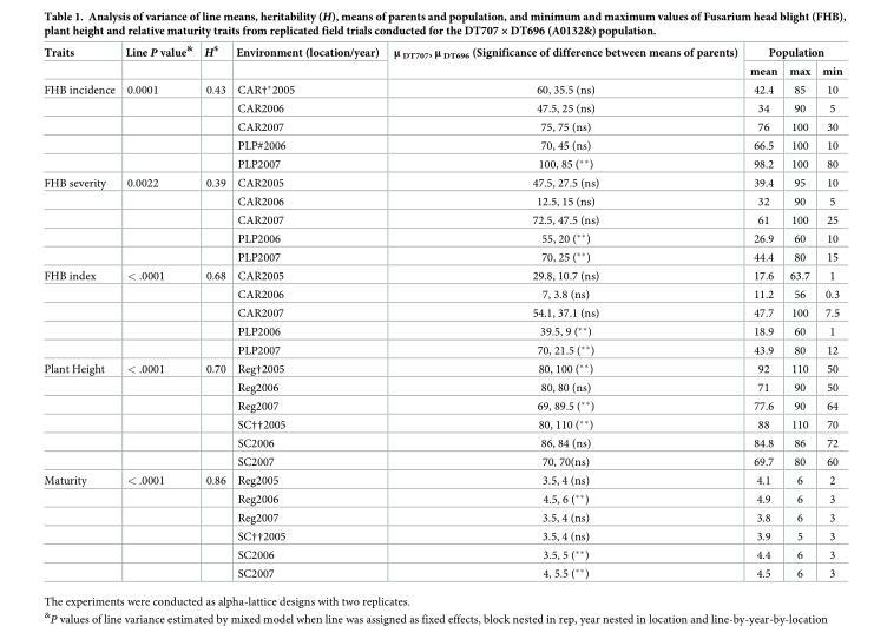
<table><thead><tr><td rowspan="2">Traits</td><td rowspan="2">Line P value<sup>&amp;</sup></td><td rowspan="2">H<sup>$</sup></td><td rowspan="2">Environment (location/year)</td><td rowspan="2">μ <sub>DT707</sub>, μ <sub>DT696</sub> (Significance of difference between means of parents)</td><td colspan="3">Population</td></tr><tr><td>mean</td><td>max</td><td>min</td></tr></thead><tbody><tr><td rowspan="5">FHB incidence</td><td>0.0001</td><td>0.43</td><td>CAR†*2005</td><td>60, 35.5 (ns)</td><td>42.4</td><td>85</td><td>10</td></tr><tr><td></td><td></td><td>CAR2006</td><td>47.5, 25 (ns)</td><td>34</td><td>90</td><td>5</td></tr><tr><td></td><td></td><td>CAR2007</td><td>75, 75 (ns)</td><td>76</td><td>100</td><td>30</td></tr><tr><td></td><td></td><td>PLP#2006</td><td>70, 45 (ns)</td><td>66.5</td><td>100</td><td>10</td></tr><tr><td></td><td></td><td>PLP2007</td><td>100, 85 (**)</td><td>98.2</td><td>100</td><td>80</td></tr><tr><td rowspan="5">FHB severity</td><td>0.0022</td><td>0.39</td><td>CAR2005</td><td>47.5, 27.5 (ns)</td><td>39.4</td><td>95</td><td>10</td></tr><tr><td></td><td></td><td>CAR2006</td><td>12.5, 15 (ns)</td><td>32</td><td>90</td><td>5</td></tr><tr><td></td><td></td><td>CAR2007</td><td>72.5, 47.5 (ns)</td><td>61</td><td>100</td><td>25</td></tr><tr><td></td><td></td><td>PLP2006</td><td>55, 20 (**)</td><td>26.9</td><td>60</td><td>10</td></tr><tr><td></td><td></td><td>PLP2007</td><td>70, 25 (**)</td><td>44.4</td><td>80</td><td>15</td></tr><tr><td rowspan="5">FHB index</td><td>&lt; .0001</td><td>0.68</td><td>CAR2005</td><td>29.8, 10.7 (ns)</td><td>17.6</td><td>63.7</td><td>1</td></tr><tr><td></td><td></td><td>CAR2006</td><td>7, 3.8 (ns)</td><td>11.2</td><td>56</td><td>0.3</td></tr><tr><td></td><td></td><td>CAR2007</td><td>54.1, 37.1 (ns)</td><td>47.7</td><td>100</td><td>7.5</td></tr><tr><td></td><td></td><td>PLP2006</td><td>39.5, 9 (**)</td><td>18.9</td><td>60</td><td>1</td></tr><tr><td></td><td></td><td>PLP2007</td><td>70, 21.5 (**)</td><td>43.9</td><td>80</td><td>12</td></tr><tr><td rowspan="6">Plant Height</td><td>&lt; .0001</td><td>0.70</td><td>Reg†2005</td><td>80, 100 (**)</td><td>92</td><td>110</td><td>50</td></tr><tr><td></td><td></td><td>Reg2006</td><td>80, 80 (ns)</td><td>71</td><td>90</td><td>50</td></tr><tr><td></td><td></td><td>Reg2007</td><td>69, 89.5 (**)</td><td>77.6</td><td>90</td><td>64</td></tr><tr><td></td><td></td><td>SC††2005</td><td>80, 110 (**)</td><td>88</td><td>110</td><td>70</td></tr><tr><td></td><td></td><td>SC2006</td><td>86, 84 (ns)</td><td>84.8</td><td>86</td><td>72</td></tr><tr><td></td><td></td><td>SC2007</td><td>70, 70(ns)</td><td>69.7</td><td>80</td><td>60</td></tr><tr><td rowspan="6">Maturity</td><td>&lt; .0001</td><td>0.86</td><td>Reg2005</td><td>3.5, 4 (ns)</td><td>4.1</td><td>6</td><td>2</td></tr><tr><td></td><td></td><td>Reg2006</td><td>4.5, 6 (**)</td><td>4.9</td><td>6</td><td>3</td></tr><tr><td></td><td></td><td>Reg2007</td><td>3.5, 4 (ns)</td><td>3.8</td><td>6</td><td>3</td></tr><tr><td></td><td></td><td>SC††2005</td><td>3.5, 4 (ns)</td><td>3.9</td><td>5</td><td>3</td></tr><tr><td></td><td></td><td>SC2006</td><td>3.5, 5 (**)</td><td>4.4</td><td>6</td><td>3</td></tr><tr><td></td><td></td><td>SC2007</td><td>4, 5.5 (**)</td><td>4.5</td><td>6</td><td>3</td></tr></tbody></table>